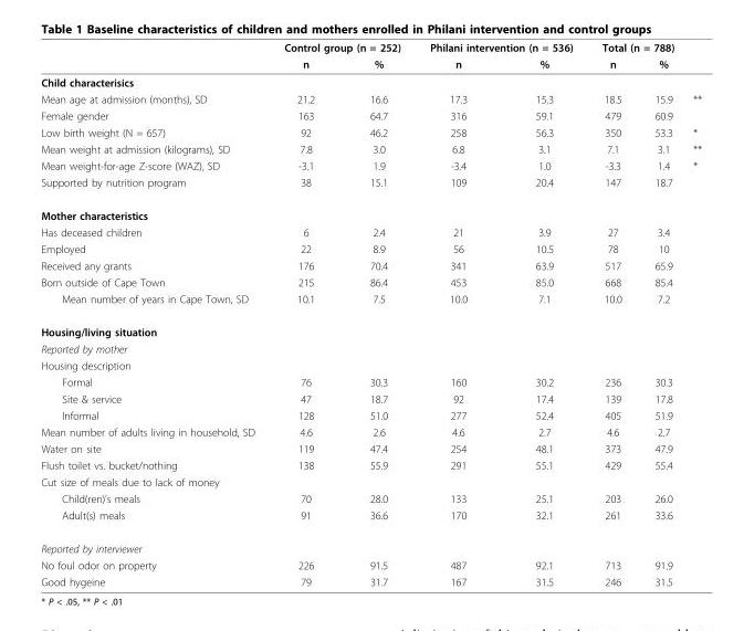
<table><thead><tr><td rowspan="2"></td><td colspan="2">Control group (n = 252)</td><td colspan="2">Philani intervention (n = 536)</td><td colspan="2">Total (n = 788)</td><td rowspan="2"></td></tr><tr><td>n</td><td>%</td><td>n</td><td>%</td><td>n</td><td>%</td></tr></thead><tbody><tr><td colspan="8">Child characterisics</td></tr><tr><td>Mean age at admission (months), SD</td><td>21.2</td><td>16.6</td><td>17.3</td><td>15.3</td><td>18.5</td><td>15.9</td><td>**</td></tr><tr><td>Female gender</td><td>163</td><td>64.7</td><td>316</td><td>59.1</td><td>479</td><td>60.9</td><td></td></tr><tr><td>Low birth weight (N = 657)</td><td>92</td><td>46.2</td><td>258</td><td>56.3</td><td>350</td><td>53.3</td><td>*</td></tr><tr><td>Mean weight at admission (kilograms), SD</td><td>7.8</td><td>3.0</td><td>6.8</td><td>3.1</td><td>7.1</td><td>3.1</td><td>**</td></tr><tr><td>Mean weight-for-age Z-score (WAZ), SD</td><td>-3.1</td><td>1.9</td><td>-3.4</td><td>1.0</td><td>-3.3</td><td>1.4</td><td>*</td></tr><tr><td>Supported by nutrition program</td><td>38</td><td>15.1</td><td>109</td><td>20.4</td><td>147</td><td>18.7</td><td></td></tr><tr><td colspan="8">Mother characteristics</td></tr><tr><td>Has deceased children</td><td>6</td><td>2.4</td><td>21</td><td>3.9</td><td>27</td><td>3.4</td><td></td></tr><tr><td>Employed</td><td>22</td><td>8.9</td><td>56</td><td>10.5</td><td>78</td><td>10</td><td></td></tr><tr><td>Received any grants</td><td>176</td><td>70.4</td><td>341</td><td>63.9</td><td>517</td><td>65.9</td><td></td></tr><tr><td>Born outside of Cape Town</td><td>215</td><td>86.4</td><td>453</td><td>85.0</td><td>668</td><td>85.4</td><td></td></tr><tr><td>Mean number of years in Cape Town, SD</td><td>10.1</td><td>7.5</td><td>10.0</td><td>7.1</td><td>10.0</td><td>7.2</td><td></td></tr><tr><td colspan="8">Housing/living situation</td></tr><tr><td colspan="8">Reported by mother</td></tr><tr><td colspan="8">Housing description</td></tr><tr><td>Formal</td><td>76</td><td>30.3</td><td>160</td><td>30.2</td><td>236</td><td>30.3</td><td></td></tr><tr><td>Site &amp; service</td><td>47</td><td>18.7</td><td>92</td><td>17.4</td><td>139</td><td>17.8</td><td></td></tr><tr><td>Informal</td><td>128</td><td>51.0</td><td>277</td><td>52.4</td><td>405</td><td>51.9</td><td></td></tr><tr><td>Mean number of adults living in household, SD</td><td>4.6</td><td>2.6</td><td>4.6</td><td>2.7</td><td>4.6</td><td>2.7</td><td></td></tr><tr><td>Water on site</td><td>119</td><td>47.4</td><td>254</td><td>48.1</td><td>373</td><td>47.9</td><td></td></tr><tr><td>Flush toilet vs. bucket/nothing</td><td>138</td><td>55.9</td><td>291</td><td>55.1</td><td>429</td><td>55.4</td><td></td></tr><tr><td colspan="8">Cut size of meals due to lack of money</td></tr><tr><td>Child(ren)’s meals</td><td>70</td><td>28.0</td><td>133</td><td>25.1</td><td>203</td><td>26.0</td><td></td></tr><tr><td>Adult(s) meals</td><td>91</td><td>36.6</td><td>170</td><td>32.1</td><td>261</td><td>33.6</td><td></td></tr><tr><td colspan="8">Reported by interviewer</td></tr><tr><td>No foul odor on property</td><td>226</td><td>91.5</td><td>487</td><td>92.1</td><td>713</td><td>91.9</td><td></td></tr><tr><td>Good hygeine</td><td>79</td><td>31.7</td><td>167</td><td>31.5</td><td>246</td><td>31.5</td><td></td></tr></tbody></table>